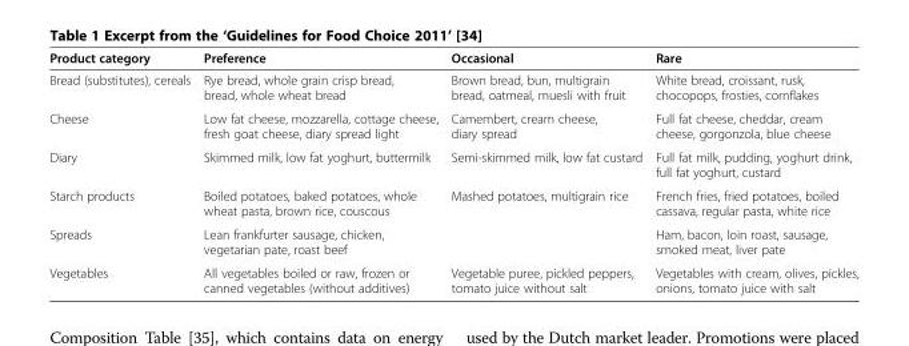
<table><thead><tr><td>Product category</td><td>Preference</td><td>Occasional</td><td>Rare</td></tr></thead><tbody><tr><td>Bread (substitutes), cereals</td><td>Rye bread, whole grain crisp bread, bread, whole wheat bread</td><td>Brown bread, bun, multigrain bread, oatmeal, muesli with fruit</td><td>White bread, croissant, rusk, chocopops, frosties, cornflakes</td></tr><tr><td>Cheese</td><td>Low fat cheese, mozzarella, cottage cheese, fresh goat cheese, diary spread light</td><td>Camembert, cream cheese, diary spread</td><td>Full fat cheese, cheddar, cream cheese, gorgonzola, blue cheese</td></tr><tr><td>Diary</td><td>Skimmed milk, low fat yoghurt, buttermilk</td><td>Semi-skimmed milk, low fat custard</td><td>Full fat milk, pudding, yoghurt drink, full fat yoghurt, custard</td></tr><tr><td>Starch products</td><td>Boiled potatoes, baked potatoes, whole wheat pasta, brown rice, couscous</td><td>Mashed potatoes, multigrain rice</td><td>French fries, fried potatoes, boiled cassava, regular pasta, white rice</td></tr><tr><td>Spreads</td><td>Lean frankfurter sausage, chicken, vegetarian pate, roast beef</td><td></td><td>Ham, bacon, loin roast, sausage, smoked meat, liver pate</td></tr><tr><td>Vegetables</td><td>All vegetables boiled or raw, frozen or canned vegetables (without additives)</td><td>Vegetable puree, pickled peppers, tomato juice without salt</td><td>Vegetables with cream, olives, pickles, onions, tomato juice with salt</td></tr></tbody></table>